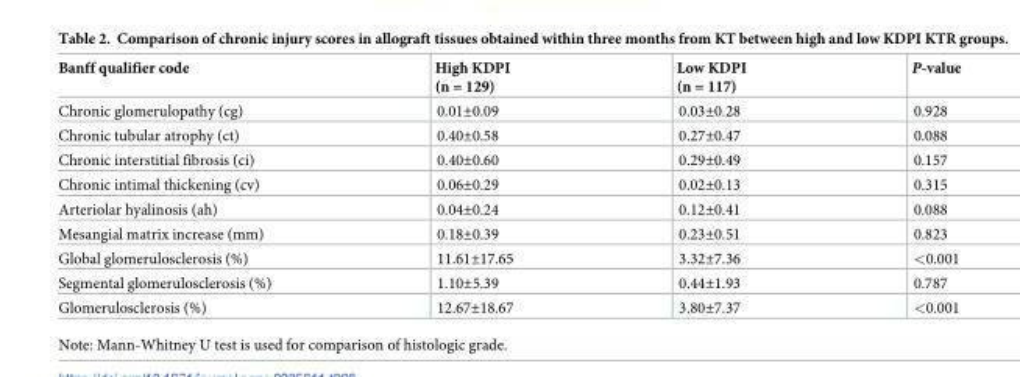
<table><thead><tr><td>Banff qualifier code</td><td>High KDPI (n = 129)</td><td>Low KDPI (n = 117)</td><td>P-value</td></tr></thead><tbody><tr><td>Chronic glomerulopathy (cg)</td><td>0.01±0.09</td><td>0.03±0.28</td><td>0.928</td></tr><tr><td>Chronic tubular atrophy (ct)</td><td>0.40±0.58</td><td>0.27±0.47</td><td>0.088</td></tr><tr><td>Chronic interstitial fibrosis (ci)</td><td>0.40±0.60</td><td>0.29±0.49</td><td>0.157</td></tr><tr><td>Chronic intimal thickening (cv)</td><td>0.06±0.29</td><td>0.02±0.13</td><td>0.315</td></tr><tr><td>Arteriolar hyalinosis (ah)</td><td>0.04±0.24</td><td>0.12±0.41</td><td>0.088</td></tr><tr><td>Mesangial matrix increase (mm)</td><td>0.18±0.39</td><td>0.23±0.51</td><td>0.823</td></tr><tr><td>Global glomerulosclerosis (%)</td><td>11.61±17.65</td><td>3.32±7.36</td><td>&lt;0.001</td></tr><tr><td>Segmental glomerulosclerosis (%)</td><td>1.10±5.39</td><td>0.44±1.93</td><td>0.787</td></tr><tr><td>Glomerulosclerosis (%)</td><td>12.67±18.67</td><td>3.80±7.37</td><td>&lt;0.001</td></tr></tbody></table>